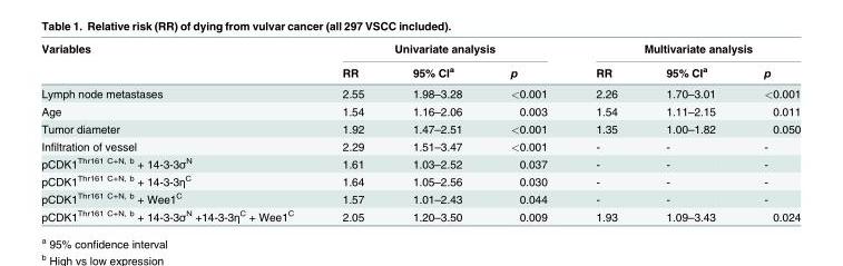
<table><thead><tr><td rowspan="2">Variables</td><td colspan="3">Univariate analysis</td><td colspan="3">Multivariate analysis</td></tr><tr><td>RR</td><td>95% CI<sup>a</sup></td><td>p</td><td>RR</td><td>95% CI<sup>a</sup></td><td>p</td></tr></thead><tbody><tr><td>Lymph node metastases</td><td>2.55</td><td>1.98–3.28</td><td>&lt;0.001</td><td>2.26</td><td>1.70–3.01</td><td>&lt;0.001</td></tr><tr><td>Age</td><td>1.54</td><td>1.16–2.06</td><td>0.003</td><td>1.54</td><td>1.11–2.15</td><td>0.011</td></tr><tr><td>Tumor diameter</td><td>1.92</td><td>1.47–2.51</td><td>&lt;0.001</td><td>1.35</td><td>1.00–1.82</td><td>0.050</td></tr><tr><td>Infiltration of vessel</td><td>2.29</td><td>1.51–3.47</td><td>&lt;0.001</td><td>-</td><td>-</td><td>-</td></tr><tr><td>pCDK1<sup>Thr161 C+N, b</sup> + 14-3-3σ<sup>N</sup></td><td>1.61</td><td>1.03–2.52</td><td>0.037</td><td>-</td><td>-</td><td>-</td></tr><tr><td>pCDK1<sup>Thr161 C+N, b</sup> + 14-3-3η<sup>C</sup></td><td>1.64</td><td>1.05–2.56</td><td>0.030</td><td>-</td><td>-</td><td>-</td></tr><tr><td>pCDK1<sup>Thr161 C+N, b</sup> + Wee1<sup>C</sup></td><td>1.57</td><td>1.01–2.43</td><td>0.044</td><td>-</td><td>-</td><td>-</td></tr><tr><td>pCDK1<sup>Thr161 C+N, b</sup> + 14-3-3σ<sup>N</sup> +14-3-3η<sup>C</sup> + Wee1<sup>C</sup></td><td>2.05</td><td>1.20–3.50</td><td>0.009</td><td>1.93</td><td>1.09–3.43</td><td>0.024</td></tr></tbody></table>